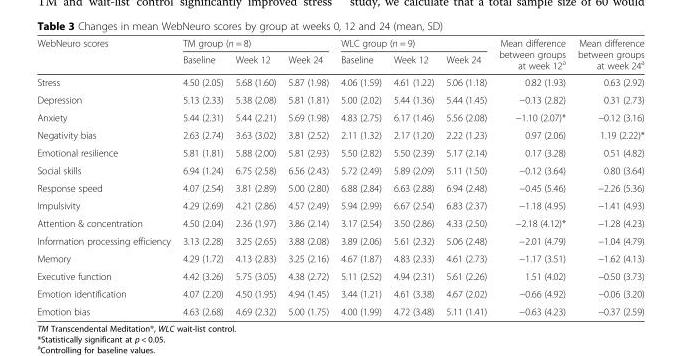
<table><thead><tr><td rowspan="2">WebNeuro scores</td><td colspan="3">TM group (n = 8)</td><td colspan="3">WLC group (n = 9)</td><td rowspan="2">Mean difference between groups at week 12<sup>a</sup></td><td rowspan="2">Mean difference between groups at week 24<sup>a</sup></td></tr><tr><td>Baseline</td><td>Week 12</td><td>Week 24</td><td>Baseline</td><td>Week 12</td><td>Week 24</td></tr></thead><tbody><tr><td>Stress</td><td>4.50 (2.05)</td><td>5.68 (1.60)</td><td>5.87 (1.98)</td><td>4.06 (1.59)</td><td>4.61 (1.22)</td><td>5.06 (1.18)</td><td>0.82 (1.93)</td><td>0.63 (2.92)</td></tr><tr><td>Depression</td><td>5.13 (2.33)</td><td>5.38 (2.08)</td><td>5.81 (1.81)</td><td>5.00 (2.02)</td><td>5.44 (1.36)</td><td>5.44 (1.45)</td><td>−0.13 (2.82)</td><td>0.31 (2.73)</td></tr><tr><td>Anxiety</td><td>5.44 (2.31)</td><td>5.44 (2.21)</td><td>5.69 (1.98)</td><td>4.83 (2.75)</td><td>6.17 (1.46)</td><td>5.56 (2.08)</td><td>−1.10 (2.07)*</td><td>−0.12 (3.16)</td></tr><tr><td>Negativity bias</td><td>2.63 (2.74)</td><td>3.63 (3.02)</td><td>3.81 (2.52)</td><td>2.11 (1.32)</td><td>2.17 (1.20)</td><td>2.22 (1.23)</td><td>0.97 (2.06)</td><td>1.19 (2.22)*</td></tr><tr><td>Emotional resilience</td><td>5.81 (1.81)</td><td>5.88 (2.00)</td><td>5.81 (2.93)</td><td>5.50 (2.82)</td><td>5.50 (2.39)</td><td>5.17 (2.14)</td><td>0.17 (3.28)</td><td>0.51 (4.82)</td></tr><tr><td>Social skills</td><td>6.94 (1.24)</td><td>6.75 (2.58)</td><td>6.56 (2.43)</td><td>5.72 (2.49)</td><td>5.89 (2.09)</td><td>5.11 (1.50)</td><td>−0.12 (3.64)</td><td>0.80 (3.64)</td></tr><tr><td>Response speed</td><td>4.07 (2.54)</td><td>3.81 (2.89)</td><td>5.00 (2.80)</td><td>6.88 (2.84)</td><td>6.63 (2.88)</td><td>6.94 (2.48)</td><td>−0.45 (5.46)</td><td>−2.26 (5.36)</td></tr><tr><td>Impulsivity</td><td>4.29 (2.69)</td><td>4.21 (2.86)</td><td>4.57 (2.49)</td><td>5.94 (2.99)</td><td>6.67 (2.54)</td><td>6.83 (2.37)</td><td>−1.18 (4.95)</td><td>−1.41 (4.93)</td></tr><tr><td>Attention &amp; concentration</td><td>4.50 (2.04)</td><td>2.36 (1.97)</td><td>3.86 (2.14)</td><td>3.17 (2.54)</td><td>3.50 (2.86)</td><td>4.33 (2.50)</td><td>−2.18 (4.12)*</td><td>−1.28 (4.23)</td></tr><tr><td>Information processing efficiency</td><td>3.13 (2.28)</td><td>3.25 (2.65)</td><td>3.88 (2.08)</td><td>3.89 (2.06)</td><td>5.61 (2.32)</td><td>5.06 (2.48)</td><td>−2.01 (4.79)</td><td>−1.04 (4.79)</td></tr><tr><td>Memory</td><td>4.29 (1.72)</td><td>4.13 (2.83)</td><td>3.25 (2.16)</td><td>4.67 (1.87)</td><td>4.83 (2.33)</td><td>4.61 (2.73)</td><td>−1.17 (3.51)</td><td>−1.62 (4.13)</td></tr><tr><td>Executive function</td><td>4.42 (3.26)</td><td>5.75 (3.05)</td><td>4.38 (2.72)</td><td>5.11 (2.52)</td><td>4.94 (2.31)</td><td>5.61 (2.26)</td><td>1.51 (4.02)</td><td>−0.50 (3.73)</td></tr><tr><td>Emotion identification</td><td>4.07 (2.20)</td><td>4.50 (1.95)</td><td>4.94 (1.45)</td><td>3.44 (1.21)</td><td>4.61 (3.38)</td><td>4.67 (2.02)</td><td>−0.66 (4.92)</td><td>−0.06 (3.20)</td></tr><tr><td>Emotion bias</td><td>4.63 (2.68)</td><td>4.69 (2.32)</td><td>5.00 (1.75)</td><td>4.00 (1.99)</td><td>4.72 (3.48)</td><td>5.11 (1.41)</td><td>−0.63 (4.23)</td><td>−0.37 (2.59)</td></tr></tbody></table>